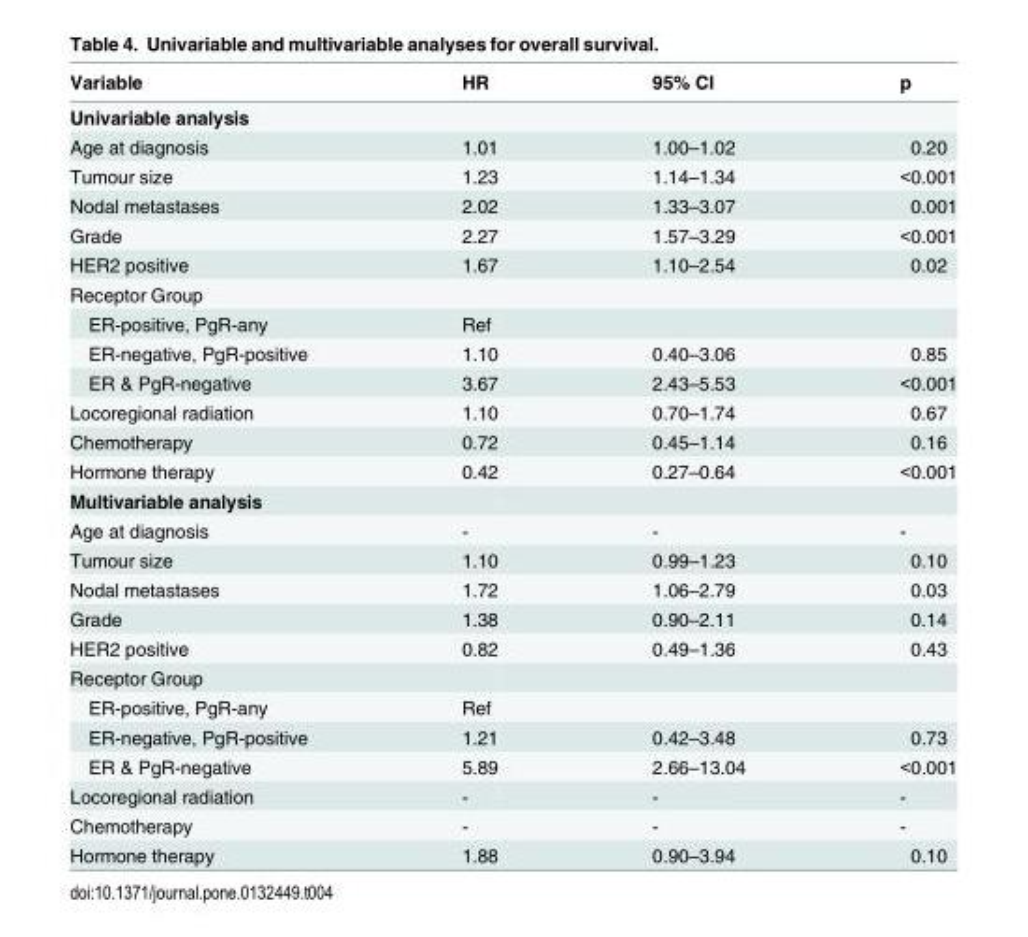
<table><thead><tr><td>Variable</td><td>HR</td><td>95% CI</td><td>p</td></tr></thead><tbody><tr><td colspan="4">Univariable analysis</td></tr><tr><td>Age at diagnosis</td><td>1.01</td><td>1.00–1.02</td><td>0.20</td></tr><tr><td>Tumour size</td><td>1.23</td><td>1.14–1.34</td><td>&lt;0.001</td></tr><tr><td>Nodal metastases</td><td>2.02</td><td>1.33–3.07</td><td>0.001</td></tr><tr><td>Grade</td><td>2.27</td><td>1.57–3.29</td><td>&lt;0.001</td></tr><tr><td>HER2 positive</td><td>1.67</td><td>1.10–2.54</td><td>0.02</td></tr><tr><td colspan="4">Receptor Group</td></tr><tr><td>ER-positive, PgR-any</td><td>Ref</td><td></td><td></td></tr><tr><td>ER-negative, PgR-positive</td><td>1.10</td><td>0.40–3.06</td><td>0.85</td></tr><tr><td>ER &amp; PgR-negative</td><td>3.67</td><td>2.43–5.53</td><td>&lt;0.001</td></tr><tr><td>Locoregional radiation</td><td>1.10</td><td>0.70–1.74</td><td>0.67</td></tr><tr><td>Chemotherapy</td><td>0.72</td><td>0.45–1.14</td><td>0.16</td></tr><tr><td>Hormone therapy</td><td>0.42</td><td>0.27–0.64</td><td>&lt;0.001</td></tr><tr><td colspan="4">Multivariable analysis</td></tr><tr><td>Age at diagnosis</td><td>-</td><td>-</td><td>-</td></tr><tr><td>Tumour size</td><td>1.10</td><td>0.99–1.23</td><td>0.10</td></tr><tr><td>Nodal metastases</td><td>1.72</td><td>1.06–2.79</td><td>0.03</td></tr><tr><td>Grade</td><td>1.38</td><td>0.90–2.11</td><td>0.14</td></tr><tr><td>HER2 positive</td><td>0.82</td><td>0.49–1.36</td><td>0.43</td></tr><tr><td colspan="4">Receptor Group</td></tr><tr><td>ER-positive, PgR-any</td><td>Ref</td><td></td><td></td></tr><tr><td>ER-negative, PgR-positive</td><td>1.21</td><td>0.42–3.48</td><td>0.73</td></tr><tr><td>ER &amp; PgR-negative</td><td>5.89</td><td>2.66–13.04</td><td>&lt;0.001</td></tr><tr><td>Locoregional radiation</td><td>-</td><td>-</td><td>-</td></tr><tr><td>Chemotherapy</td><td>-</td><td>-</td><td>-</td></tr><tr><td>Hormone therapy</td><td>1.88</td><td>0.90–3.94</td><td>0.10</td></tr></tbody></table>